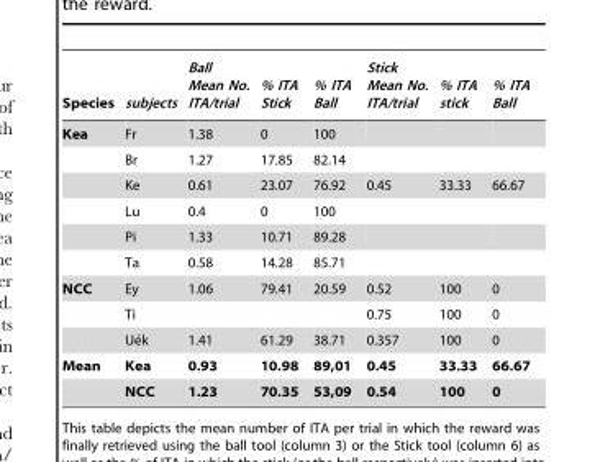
<table><thead><tr><td>Species</td><td>subjects</td><td>Ball Mean No. ITA/trial</td><td>% ITA Stick</td><td>% ITA Ball</td><td>Stick Mean No. ITA/trial</td><td>% ITA stick</td><td>% ITA Ball</td></tr></thead><tbody><tr><td rowspan="6">Kea</td><td>Fr</td><td>1.38</td><td>0</td><td>100</td><td></td><td></td><td></td></tr><tr><td>Br</td><td>1.27</td><td>17.85</td><td>82.14</td><td></td><td></td><td></td></tr><tr><td>Ke</td><td>0.61</td><td>23.07</td><td>76.92</td><td>0.45</td><td>33.33</td><td>66.67</td></tr><tr><td>Lu</td><td>0.4</td><td>0</td><td>100</td><td></td><td></td><td></td></tr><tr><td>Pi</td><td>1.33</td><td>10.71</td><td>89.28</td><td></td><td></td><td></td></tr><tr><td>Ta</td><td>0.58</td><td>14.28</td><td>85.71</td><td></td><td></td><td></td></tr><tr><td rowspan="3">NCC</td><td>Ey</td><td>1.06</td><td>79.41</td><td>20.59</td><td>0.52</td><td>100</td><td>0</td></tr><tr><td>Ti</td><td></td><td></td><td></td><td>0.75</td><td>100</td><td>0</td></tr><tr><td>Ue´k</td><td>1.41</td><td>61.29</td><td>38.71</td><td>0.357</td><td>100</td><td>0</td></tr><tr><td rowspan="2">Mean</td><td>Kea</td><td>0.93</td><td>10.98</td><td>89,01</td><td>0.45</td><td>33.33</td><td>66.67</td></tr><tr><td>NCC</td><td>1.23</td><td>70.35</td><td>53,09</td><td>0.54</td><td>100</td><td>0</td></tr></tbody></table>